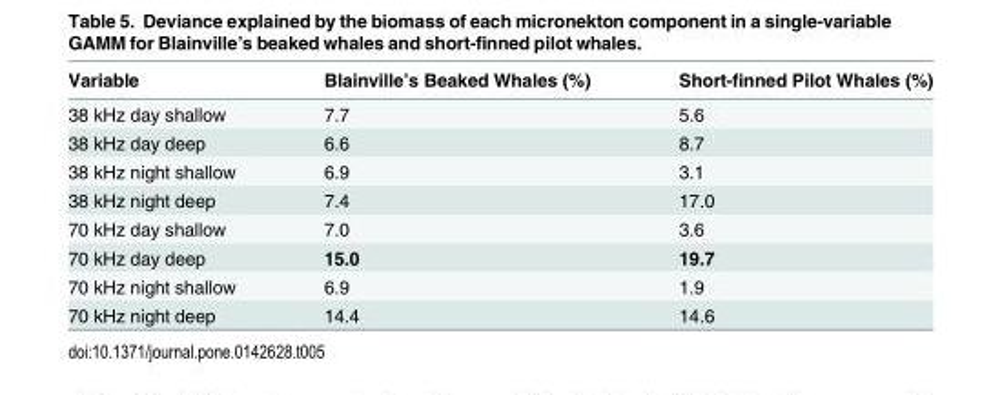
<table><thead><tr><td>Variable</td><td>Blainville’s Beaked Whales (%)</td><td>Short-finned Pilot Whales (%)</td></tr></thead><tbody><tr><td>38 kHz day shallow</td><td>7.7</td><td>5.6</td></tr><tr><td>38 kHz day deep</td><td>6.6</td><td>8.7</td></tr><tr><td>38 kHz night shallow</td><td>6.9</td><td>3.1</td></tr><tr><td>38 kHz night deep</td><td>7.4</td><td>17.0</td></tr><tr><td>70 kHz day shallow</td><td>7.0</td><td>3.6</td></tr><tr><td>70 kHz day deep</td><td>15.0</td><td>19.7</td></tr><tr><td>70 kHz night shallow</td><td>6.9</td><td>1.9</td></tr><tr><td>70 kHz night deep</td><td>14.4</td><td>14.6</td></tr></tbody></table>